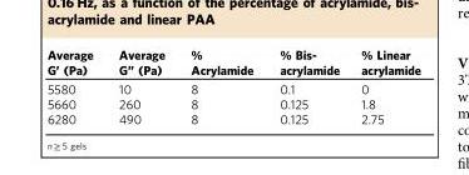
<table><thead><tr><td>Average G’ (Pa)</td><td>Average G” (Pa)</td><td>% Acrylamide</td><td>% Bis- acrylamide</td><td>% Linear acrylamide</td></tr></thead><tbody><tr><td>5580</td><td>10</td><td>8</td><td>0.1</td><td>0</td></tr><tr><td>5660</td><td>260</td><td>8</td><td>0.125</td><td>1.8</td></tr><tr><td>6280</td><td>490</td><td>8</td><td>0.125</td><td>2.75</td></tr></tbody></table>